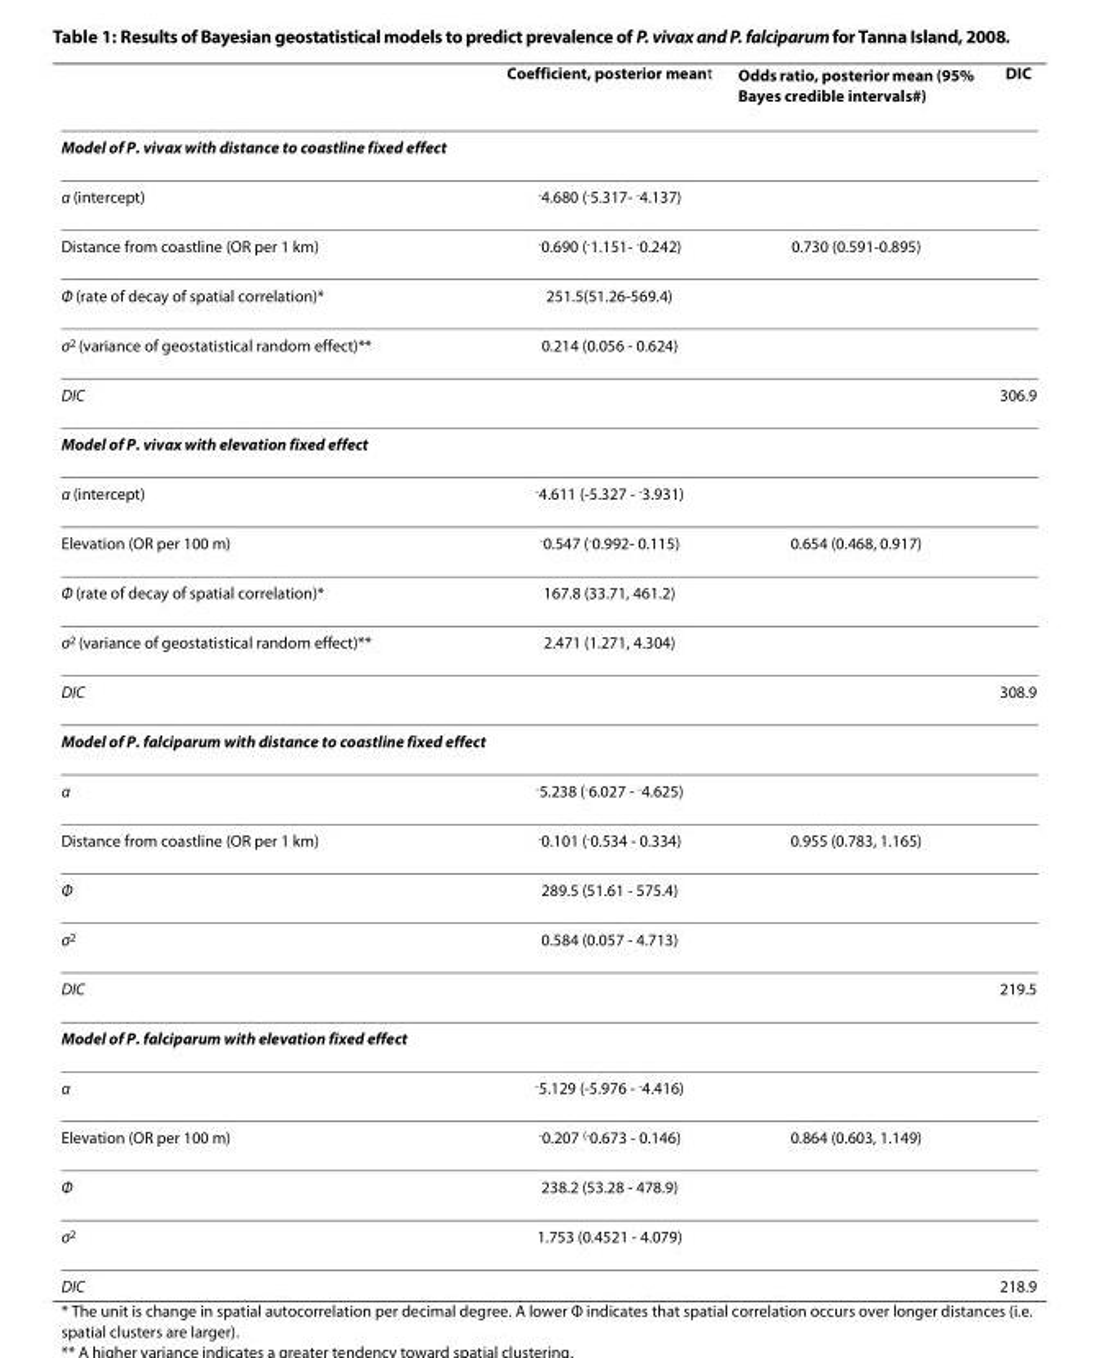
<table><thead><tr><td></td><td>Coefficient, posterior meant</td><td>Odds ratio, posterior mean (95% Bayes credible intervals<sup>#</sup>)</td><td>DIC</td></tr></thead><tbody><tr><td colspan="4">Model of P. vivax with distance to coastline fixed effect</td></tr><tr><td>α (intercept)</td><td><sup>-</sup>4.680 (<sup>-</sup>5.317- <sup>-</sup>4.137)</td><td></td><td></td></tr><tr><td>Distance from coastline (OR per 1 km)</td><td><sup>-</sup>0.690 (<sup>-</sup>1.151- <sup>-</sup>0.242)</td><td>0.730 (0.591-0.895)</td><td></td></tr><tr><td>Φ (rate of decay of spatial correlation)*</td><td>251.5(51.26-569.4)</td><td></td><td></td></tr><tr><td>σ<sup>2</sup> (variance of geostatistical random effect)**</td><td>0.214 (0.056 - 0.624)</td><td></td><td></td></tr><tr><td>DIC</td><td></td><td></td><td>306.9</td></tr><tr><td colspan="4">Model of P. vivax with elevation fixed effect</td></tr><tr><td>α (intercept)</td><td><sup>-</sup>4.611 (-5.327 - <sup>-</sup>3.931)</td><td></td><td></td></tr><tr><td>Elevation (OR per 100 m)</td><td><sup>-</sup>0.547 (<sup>-</sup>0.992- 0.115)</td><td>0.654 (0.468, 0.917)</td><td></td></tr><tr><td>Φ (rate of decay of spatial correlation)*</td><td>167.8 (33.71, 461.2)</td><td></td><td></td></tr><tr><td>σ<sup>2</sup> (variance of geostatistical random effect)**</td><td>2.471 (1.271, 4.304)</td><td></td><td></td></tr><tr><td>DIC</td><td></td><td></td><td>308.9</td></tr><tr><td colspan="4">Model of P. falciparum with distance to coastline fixed effect</td></tr><tr><td>α</td><td><sup>-</sup>5.238 (<sup>-</sup>6.027 - <sup>-</sup>4.625)</td><td></td><td></td></tr><tr><td>Distance from coastline (OR per 1 km)</td><td><sup>-</sup>0.101 (<sup>-</sup>0.534 - 0.334)</td><td>0.955 (0.783, 1.165)</td><td></td></tr><tr><td>Φ</td><td>289.5 (51.61 - 575.4)</td><td></td><td></td></tr><tr><td>σ<sup>2</sup></td><td>0.584 (0.057 - 4.713)</td><td></td><td></td></tr><tr><td>DIC</td><td></td><td></td><td>219.5</td></tr><tr><td colspan="4">Model of P. falciparum with elevation fixed effect</td></tr><tr><td>α</td><td><sup>-</sup>5.129 (-5.976 - <sup>-</sup>4.416)</td><td></td><td></td></tr><tr><td>Elevation (OR per 100 m)</td><td><sup>-</sup>0.207 <sup>(-</sup>0.673 - 0.146)</td><td>0.864 (0.603, 1.149)</td><td></td></tr><tr><td>Φ</td><td>238.2 (53.28 - 478.9)</td><td></td><td></td></tr><tr><td>σ<sup>2</sup></td><td>1.753 (0.4521 - 4.079)</td><td></td><td></td></tr><tr><td>DIC</td><td></td><td></td><td>218.9</td></tr></tbody></table>